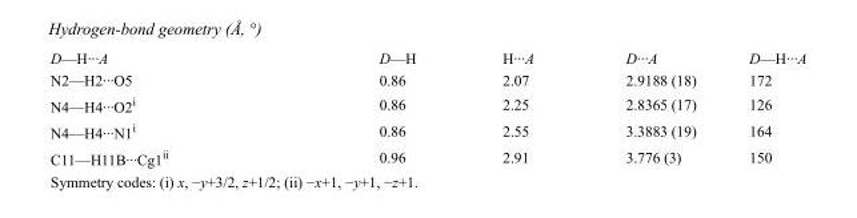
<table><tbody><tr><td>D—H···A</td><td>D—H</td><td>H···A</td><td>D···A</td><td>D—H···A</td></tr><tr><td>N2—H2···O5</td><td>0.86</td><td>2.07</td><td>2.9188 (18)</td><td>172</td></tr><tr><td>N4—H4···O2<sup>i</sup></td><td>0.86</td><td>2.25</td><td>2.8365 (17)</td><td>126</td></tr><tr><td>N4—H4···N1<sup>i</sup></td><td>0.86</td><td>2.55</td><td>3.3883 (19)</td><td>164</td></tr><tr><td>C11—H11B···Cg1<sup>ii</sup></td><td>0.96</td><td>2.91</td><td>3.776 (3)</td><td>150</td></tr></tbody></table>